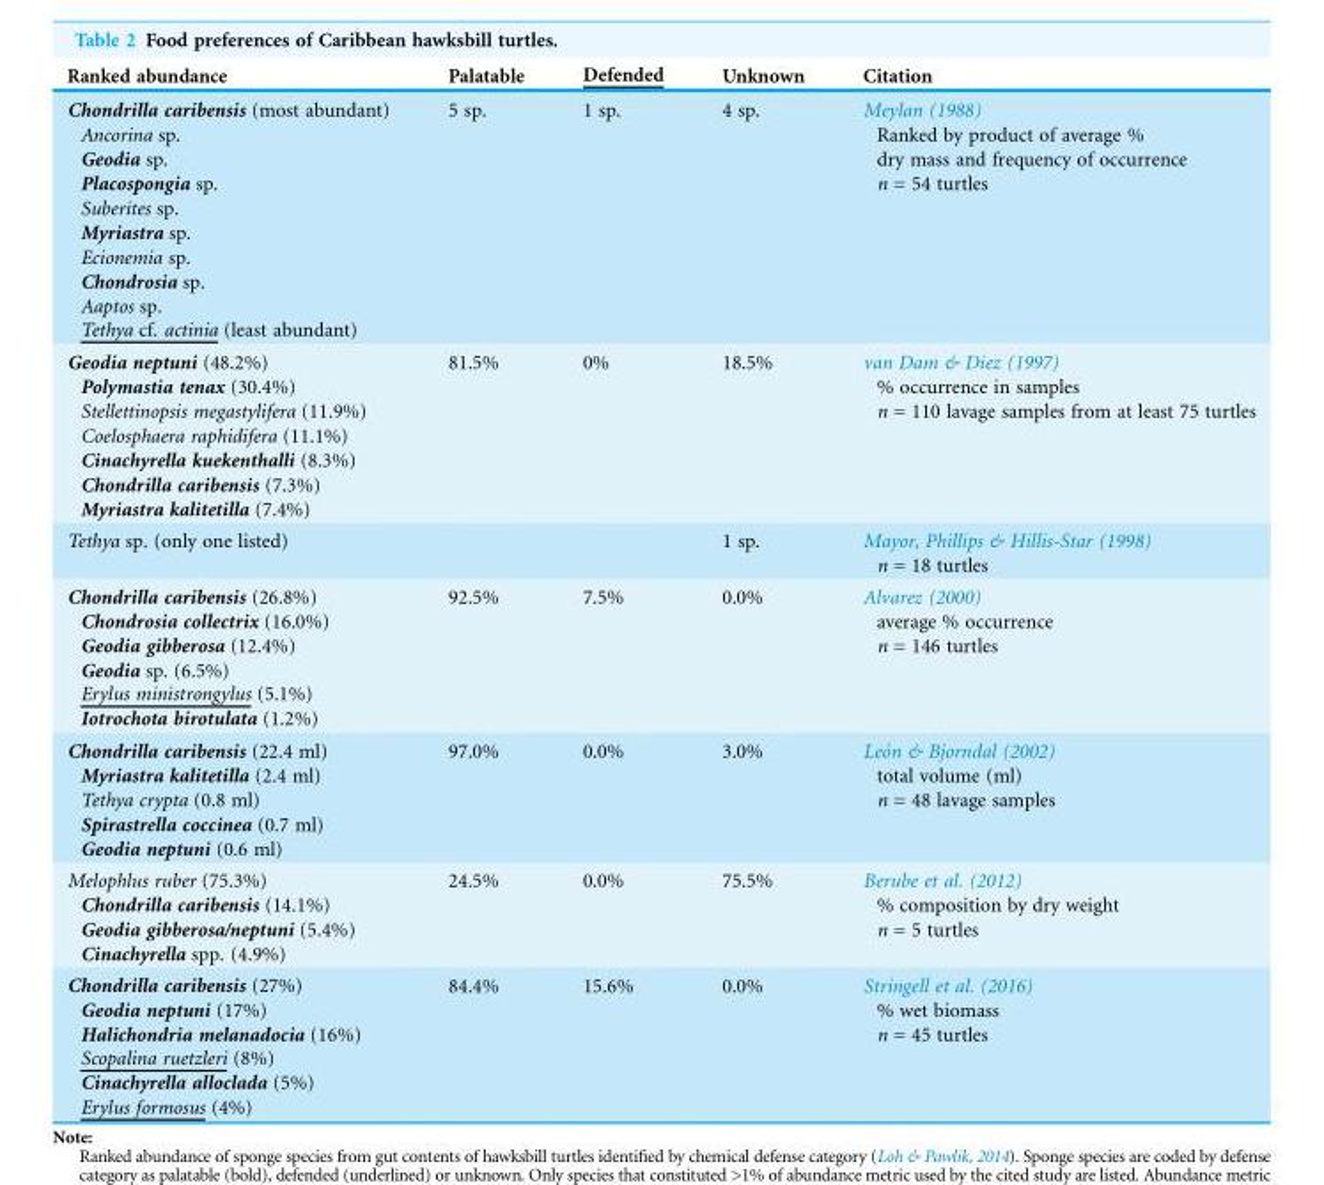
<table><thead><tr><td>Ranked abundance</td><td>Palatable</td><td>Defended</td><td>Unknown</td><td>Citation</td></tr></thead><tbody><tr><td>Chondrilla caribensis (most abundant) Ancorina sp. Geodia sp. Placospongia sp. Suberites sp. Myriastra sp. Ecionemia sp. Chondrosia sp. Aaptos sp. Tethya cf. actinia (least abundant)</td><td>5 sp.</td><td>1 sp.</td><td>4 sp.</td><td>Meylan (1988) Ranked by product of average % dry mass and frequency of occurrence n = 54 turtles</td></tr><tr><td>Geodia neptuni (48.2%) Polymastia tenax (30.4%) Stellettinopsis megastylifera (11.9%) Coelosphaera raphidifera (11.1%) Cinachyrella kuekenthalli (8.3%) Chondrilla caribensis (7.3%) Myriastra kalitetilla (7.4%)</td><td>81.5%</td><td>0%</td><td>18.5%</td><td>van Dam &amp; Diez (1997) % occurrence in samples n = 110 lavage samples from at least 75 turtles</td></tr><tr><td>Tethya sp. (only one listed)</td><td></td><td></td><td>1 sp.</td><td>Mayor, Phillips &amp; Hillis-Star (1998) n = 18 turtles</td></tr><tr><td>Chondrilla caribensis (26.8%) Chondrosia collectrix (16.0%) Geodia gibberosa (12.4%) Geodia sp. (6.5%) Erylus ministrongylus (5.1%) Iotrochota birotulata (1.2%)</td><td>92.5%</td><td>7.5%</td><td>0.0%</td><td>Alvarez (2000) average % occurrence n = 146 turtles</td></tr><tr><td>Chondrilla caribensis (22.4 ml) Myriastra kalitetilla (2.4 ml) Tethya crypta (0.8 ml) Spirastrella coccinea (0.7 ml) Geodia neptuni (0.6 ml)</td><td>97.0%</td><td>0.0%</td><td>3.0%</td><td>Leo´n &amp; Bjorndal (2002) total volume (ml) n = 48 lavage samples</td></tr><tr><td>Melophlus ruber (75.3%) Chondrilla caribensis (14.1%) Geodia gibberosa/neptuni (5.4%) Cinachyrella spp. (4.9%)</td><td>24.5%</td><td>0.0%</td><td>75.5%</td><td>Berube et al. (2012) % composition by dry weight n = 5 turtles</td></tr><tr><td>Chondrilla caribensis (27%) Geodia neptuni (17%) Halichondria melanadocia (16%) Scopalina ruetzleri (8%) Cinachyrella alloclada (5%) Erylus formosus (4%)</td><td>84.4%</td><td>15.6%</td><td>0.0%</td><td>Stringell et al. (2016) % wet biomass n = 45 turtles</td></tr></tbody></table>